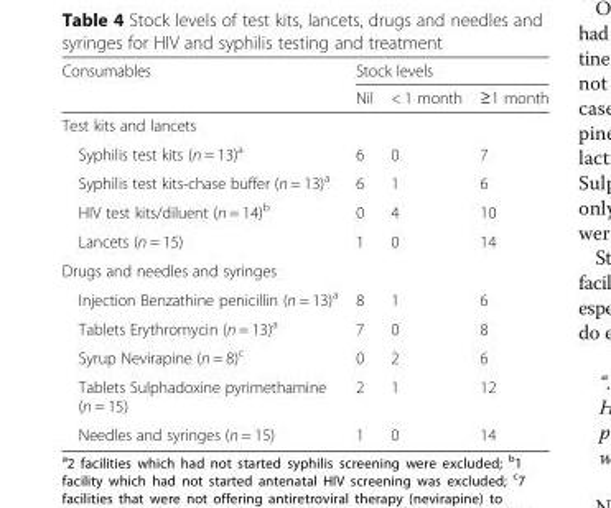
<table><thead><tr><td rowspan="2">Consumables</td><td colspan="3">Stock levels</td></tr><tr><td>Nil</td><td>&lt; 1 month</td><td>≥1 month</td></tr></thead><tbody><tr><td colspan="4">Test kits and lancets</td></tr><tr><td>Syphilis test kits (n = 13)<sup>a</sup></td><td>6</td><td>0</td><td>7</td></tr><tr><td>Syphilis test kits-chase buffer (n = 13)<sup>a</sup></td><td>6</td><td>1</td><td>6</td></tr><tr><td>HIV test kits/diluent (n = 14)<sup>b</sup></td><td>0</td><td>4</td><td>10</td></tr><tr><td>Lancets (n = 15)</td><td>1</td><td>0</td><td>14</td></tr><tr><td colspan="4">Drugs and needles and syringes</td></tr><tr><td>Injection Benzathine penicillin (n = 13)<sup>a</sup></td><td>8</td><td>1</td><td>6</td></tr><tr><td>Tablets Erythromycin (n = 13)<sup>a</sup></td><td>7</td><td>0</td><td>8</td></tr><tr><td>Syrup Nevirapine (n = 8)<sup>c</sup></td><td>0</td><td>2</td><td>6</td></tr><tr><td>Tablets Sulphadoxine pyrimethamine (n = 15)</td><td>2</td><td>1</td><td>12</td></tr><tr><td>Needles and syringes (n = 15)</td><td>1</td><td>0</td><td>14</td></tr></tbody></table>